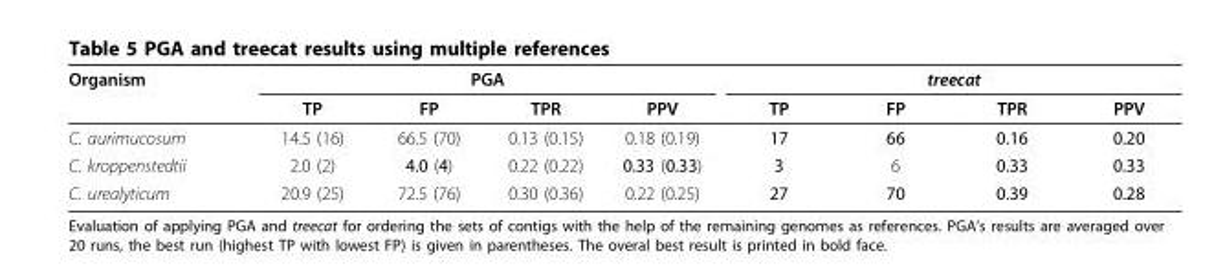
<table><thead><tr><td rowspan="2">Organism</td><td colspan="4">PGA</td><td colspan="4">treecat</td></tr><tr><td>TP</td><td>FP</td><td>TPR</td><td>PPV</td><td>TP</td><td>FP</td><td>TPR</td><td>PPV</td></tr></thead><tbody><tr><td>C. aurimucosum</td><td>14.5 (16)</td><td>66.5 (70)</td><td>0.13 (0.15)</td><td>0.18 (0.19)</td><td>17</td><td>66</td><td>0.16</td><td>0.20</td></tr><tr><td>C. kroppenstedtii</td><td>2.0 (2)</td><td>4.0 (4)</td><td>0.22 (0.22)</td><td>0.33 (0.33)</td><td>3</td><td>6</td><td>0.33</td><td>0.33</td></tr><tr><td>C. urealyticum</td><td>20.9 (25)</td><td>72.5 (76)</td><td>0.30 (0.36)</td><td>0.22 (0.25)</td><td>27</td><td>70</td><td>0.39</td><td>0.28</td></tr></tbody></table>